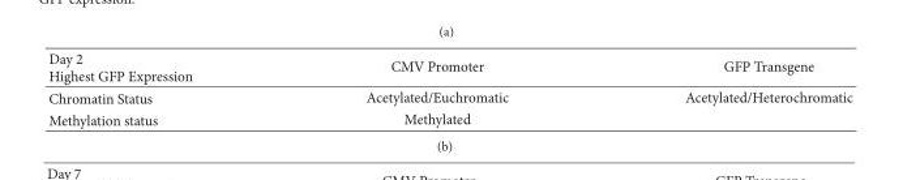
<table><thead><tr><td>Day 2 Highest GFP Expression</td><td>CMV Promoter</td><td>GFP Transgene</td></tr></thead><tbody><tr><td>Chromatin Status</td><td>Acetylated/Euchromatic</td><td>Acetylated/Heterochromatic</td></tr><tr><td>Methylation status</td><td>Methylated</td><td></td></tr></tbody></table>